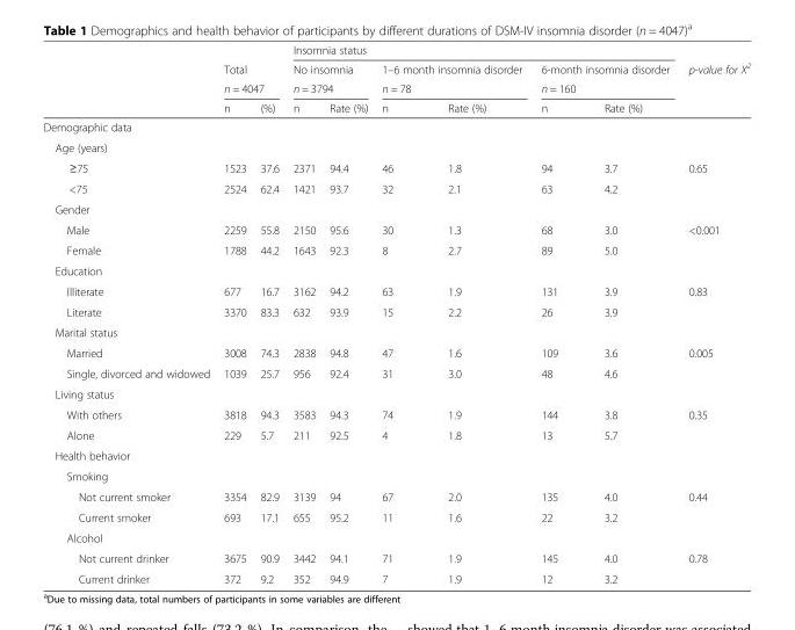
<table><thead><tr><td rowspan="4"></td><td></td><td></td><td colspan="6">Insomnia status</td><td rowspan="4">p-value for X<sup>2</sup></td></tr><tr><td rowspan="2" colspan="2">Total n = 4047</td><td rowspan="2" colspan="2">No insomnia n = 3794</td><td rowspan="2" colspan="2">1–6 month insomnia disorder n = 78</td><td rowspan="2" colspan="2">6-month insomnia disorder n = 160</td></tr><tr></tr><tr><td>n</td><td>(%)</td><td>n</td><td>Rate (%)</td><td>n</td><td>Rate (%)</td><td>n</td><td>Rate (%)</td></tr></thead><tbody><tr><td colspan="10">Demographic data</td></tr><tr><td colspan="10">Age (years)</td></tr><tr><td>≥75</td><td>1523</td><td>37.6</td><td>2371</td><td>94.4</td><td>46</td><td>1.8</td><td>94</td><td>3.7</td><td>0.65</td></tr><tr><td>&lt;75</td><td>2524</td><td>62.4</td><td>1421</td><td>93.7</td><td>32</td><td>2.1</td><td>63</td><td>4.2</td><td></td></tr><tr><td colspan="10">Gender</td></tr><tr><td>Male</td><td>2259</td><td>55.8</td><td>2150</td><td>95.6</td><td>30</td><td>1.3</td><td>68</td><td>3.0</td><td>&lt;0.001</td></tr><tr><td>Female</td><td>1788</td><td>44.2</td><td>1643</td><td>92.3</td><td>8</td><td>2.7</td><td>89</td><td>5.0</td><td></td></tr><tr><td colspan="10">Education</td></tr><tr><td>Illiterate</td><td>677</td><td>16.7</td><td>3162</td><td>94.2</td><td>63</td><td>1.9</td><td>131</td><td>3.9</td><td>0.83</td></tr><tr><td>Literate</td><td>3370</td><td>83.3</td><td>632</td><td>93.9</td><td>15</td><td>2.2</td><td>26</td><td>3.9</td><td></td></tr><tr><td colspan="10">Marital status</td></tr><tr><td>Married</td><td>3008</td><td>74.3</td><td>2838</td><td>94.8</td><td>47</td><td>1.6</td><td>109</td><td>3.6</td><td>0.005</td></tr><tr><td>Single, divorced and widowed</td><td>1039</td><td>25.7</td><td>956</td><td>92.4</td><td>31</td><td>3.0</td><td>48</td><td>4.6</td><td></td></tr><tr><td colspan="10">Living status</td></tr><tr><td>With others</td><td>3818</td><td>94.3</td><td>3583</td><td>94.3</td><td>74</td><td>1.9</td><td>144</td><td>3.8</td><td>0.35</td></tr><tr><td>Alone</td><td>229</td><td>5.7</td><td>211</td><td>92.5</td><td>4</td><td>1.8</td><td>13</td><td>5.7</td><td></td></tr><tr><td colspan="10">Health behavior</td></tr><tr><td colspan="10">Smoking</td></tr><tr><td>Not current smoker</td><td>3354</td><td>82.9</td><td>3139</td><td>94</td><td>67</td><td>2.0</td><td>135</td><td>4.0</td><td>0.44</td></tr><tr><td>Current smoker</td><td>693</td><td>17.1</td><td>655</td><td>95.2</td><td>11</td><td>1.6</td><td>22</td><td>3.2</td><td></td></tr><tr><td colspan="10">Alcohol</td></tr><tr><td>Not current drinker</td><td>3675</td><td>90.9</td><td>3442</td><td>94.1</td><td>71</td><td>1.9</td><td>145</td><td>4.0</td><td>0.78</td></tr><tr><td>Current drinker</td><td>372</td><td>9.2</td><td>352</td><td>94.9</td><td>7</td><td>1.9</td><td>12</td><td>3.2</td><td></td></tr></tbody></table>